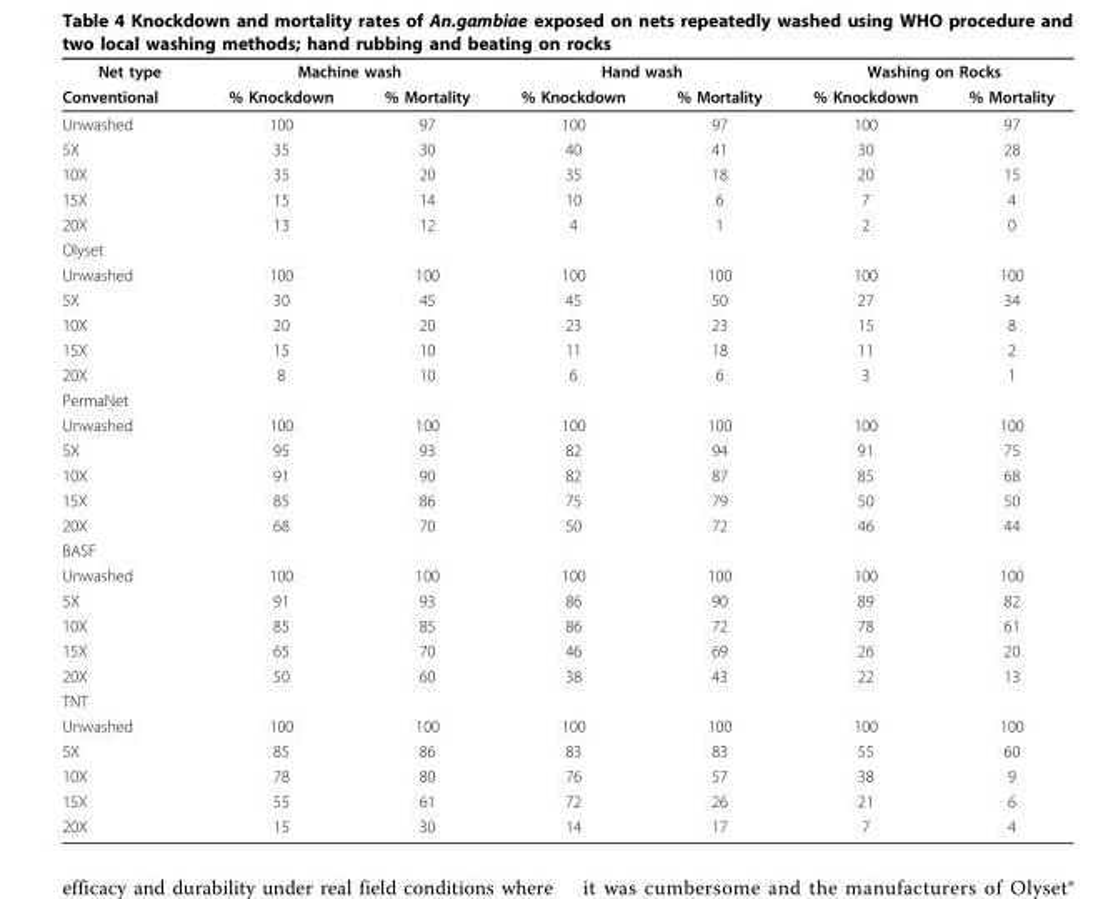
<table><thead><tr><td rowspan="2">Net type Conventional</td><td colspan="2">Machine wash</td><td colspan="2">Hand wash</td><td colspan="2">Washing on Rocks</td></tr><tr><td>% Knockdown</td><td>% Mortality</td><td>% Knockdown</td><td>% Mortality</td><td>% Knockdown</td><td>% Mortality</td></tr></thead><tbody><tr><td>Unwashed</td><td>100</td><td>97</td><td>100</td><td>97</td><td>100</td><td>97</td></tr><tr><td>5X</td><td>35</td><td>30</td><td>40</td><td>41</td><td>30</td><td>28</td></tr><tr><td>10X</td><td>35</td><td>20</td><td>35</td><td>18</td><td>20</td><td>15</td></tr><tr><td>15X</td><td>15</td><td>14</td><td>10</td><td>6</td><td>7</td><td>4</td></tr><tr><td>20X</td><td>13</td><td>12</td><td>4</td><td>1</td><td>2</td><td>0</td></tr><tr><td colspan="7">Olyset</td></tr><tr><td>Unwashed</td><td>100</td><td>100</td><td>100</td><td>100</td><td>100</td><td>100</td></tr><tr><td>5X</td><td>30</td><td>45</td><td>45</td><td>50</td><td>27</td><td>34</td></tr><tr><td>10X</td><td>20</td><td>20</td><td>23</td><td>23</td><td>15</td><td>8</td></tr><tr><td>15X</td><td>15</td><td>10</td><td>11</td><td>18</td><td>11</td><td>2</td></tr><tr><td>20X</td><td>8</td><td>10</td><td>6</td><td>6</td><td>3</td><td>1</td></tr><tr><td colspan="7">PermaNet</td></tr><tr><td>Unwashed</td><td>100</td><td>100</td><td>100</td><td>100</td><td>100</td><td>100</td></tr><tr><td>5X</td><td>95</td><td>93</td><td>82</td><td>94</td><td>91</td><td>75</td></tr><tr><td>10X</td><td>91</td><td>90</td><td>82</td><td>87</td><td>85</td><td>68</td></tr><tr><td>15X</td><td>85</td><td>86</td><td>75</td><td>79</td><td>50</td><td>50</td></tr><tr><td>20X</td><td>68</td><td>70</td><td>50</td><td>72</td><td>46</td><td>44</td></tr><tr><td colspan="7">BASF</td></tr><tr><td>Unwashed</td><td>100</td><td>100</td><td>100</td><td>100</td><td>100</td><td>100</td></tr><tr><td>5X</td><td>91</td><td>93</td><td>86</td><td>90</td><td>89</td><td>82</td></tr><tr><td>10X</td><td>85</td><td>85</td><td>86</td><td>72</td><td>78</td><td>61</td></tr><tr><td>15X</td><td>65</td><td>70</td><td>46</td><td>69</td><td>26</td><td>20</td></tr><tr><td>20X</td><td>50</td><td>60</td><td>38</td><td>43</td><td>22</td><td>13</td></tr><tr><td colspan="7">TNT</td></tr><tr><td>Unwashed</td><td>100</td><td>100</td><td>100</td><td>100</td><td>100</td><td>100</td></tr><tr><td>5X</td><td>85</td><td>86</td><td>83</td><td>83</td><td>55</td><td>60</td></tr><tr><td>10X</td><td>78</td><td>80</td><td>76</td><td>57</td><td>38</td><td>9</td></tr><tr><td>15X</td><td>55</td><td>61</td><td>72</td><td>26</td><td>21</td><td>6</td></tr><tr><td>20X</td><td>15</td><td>30</td><td>14</td><td>17</td><td>7</td><td>4</td></tr></tbody></table>